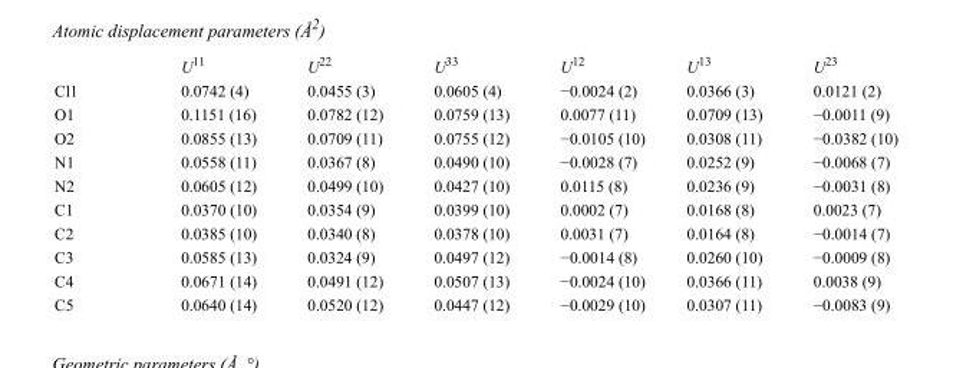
<table><thead><tr><td></td><td>U<sup>11</sup></td><td>U<sup>22</sup></td><td>U<sup>33</sup></td><td>U<sup>12</sup></td><td>U<sup>13</sup></td><td>U<sup>23</sup></td></tr></thead><tbody><tr><td>Cl1</td><td>0.0742 (4)</td><td>0.0455 (3)</td><td>0.0605 (4)</td><td>−0.0024 (2)</td><td>0.0366 (3)</td><td>0.0121 (2)</td></tr><tr><td>O1</td><td>0.1151 (16)</td><td>0.0782 (12)</td><td>0.0759 (13)</td><td>0.0077 (11)</td><td>0.0709 (13)</td><td>−0.0011 (9)</td></tr><tr><td>O2</td><td>0.0855 (13)</td><td>0.0709 (11)</td><td>0.0755 (12)</td><td>−0.0105 (10)</td><td>0.0308 (11)</td><td>−0.0382 (10)</td></tr><tr><td>N1</td><td>0.0558 (11)</td><td>0.0367 (8)</td><td>0.0490 (10)</td><td>−0.0028 (7)</td><td>0.0252 (9)</td><td>−0.0068 (7)</td></tr><tr><td>N2</td><td>0.0605 (12)</td><td>0.0499 (10)</td><td>0.0427 (10)</td><td>0.0115 (8)</td><td>0.0236 (9)</td><td>−0.0031 (8)</td></tr><tr><td>C1</td><td>0.0370 (10)</td><td>0.0354 (9)</td><td>0.0399 (10)</td><td>0.0002 (7)</td><td>0.0168 (8)</td><td>0.0023 (7)</td></tr><tr><td>C2</td><td>0.0385 (10)</td><td>0.0340 (8)</td><td>0.0378 (10)</td><td>0.0031 (7)</td><td>0.0164 (8)</td><td>−0.0014 (7)</td></tr><tr><td>C3</td><td>0.0585 (13)</td><td>0.0324 (9)</td><td>0.0497 (12)</td><td>−0.0014 (8)</td><td>0.0260 (10)</td><td>−0.0009 (8)</td></tr><tr><td>C4</td><td>0.0671 (14)</td><td>0.0491 (12)</td><td>0.0507 (13)</td><td>−0.0024 (10)</td><td>0.0366 (11)</td><td>0.0038 (9)</td></tr><tr><td>C5</td><td>0.0640 (14)</td><td>0.0520 (12)</td><td>0.0447 (12)</td><td>−0.0029 (10)</td><td>0.0307 (11)</td><td>−0.0083 (9)</td></tr></tbody></table>